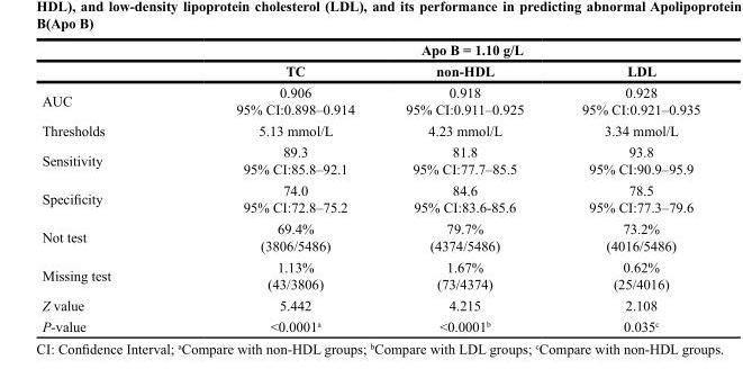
<table><thead><tr><td rowspan="2"></td><td colspan="3">Apo B = 1.10 g/L</td></tr><tr><td>TC</td><td>non-HDL</td><td>LDL</td></tr></thead><tbody><tr><td>AUC</td><td>0.906 95% CI:0.898–0.914</td><td>0.918 95% CI:0.911–0.925</td><td>0.928 95% CI:0.921–0.935</td></tr><tr><td>Thresholds</td><td>5.13 mmol/L</td><td>4.23 mmol/L</td><td>3.34 mmol/L</td></tr><tr><td>Sensitivity</td><td>89.3 95% CI:85.8–92.1</td><td>81.8 95% CI:77.7–85.5</td><td>93.8 95% CI:90.9–95.9</td></tr><tr><td>Specificity</td><td>74.0 95% CI:72.8–75.2</td><td>84.6 95% CI:83.6-85.6</td><td>78.5 95% CI:77.3–79.6</td></tr><tr><td>Not test</td><td>69.4% (3806/5486)</td><td>79.7% (4374/5486)</td><td>73.2% (4016/5486)</td></tr><tr><td>Missing test</td><td>1.13% (43/3806)</td><td>1.67% (73/4374)</td><td>0.62% (25/4016)</td></tr><tr><td>Z value</td><td>5.442</td><td>4.215</td><td>2.108</td></tr><tr><td>P-value</td><td>&lt;0.0001<sup>a</sup></td><td>&lt;0.0001<sup>b</sup></td><td>0.035<sup>c</sup></td></tr></tbody></table>